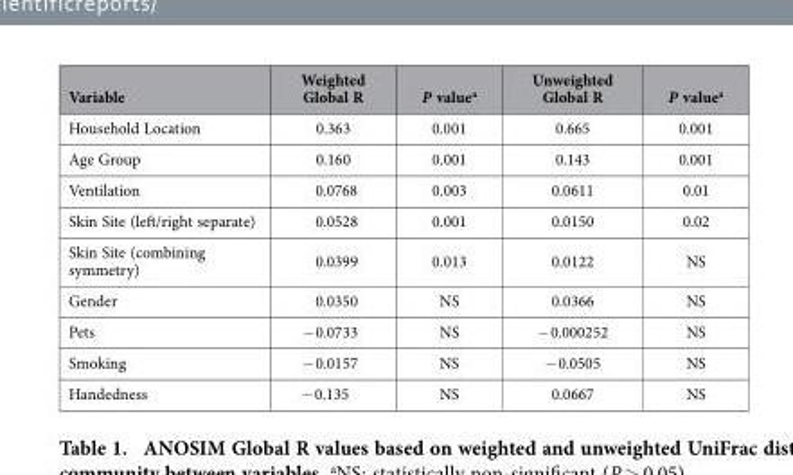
<table><thead><tr><td>Variable</td><td>Weighted Global R</td><td>P value<sup>a</sup></td><td>Unweighted Global R</td><td>P value<sup>a</sup></td></tr></thead><tbody><tr><td>Household Location</td><td>0.363</td><td>0.001</td><td>0.665</td><td>0.001</td></tr><tr><td>Age Group</td><td>0.160</td><td>0.001</td><td>0.143</td><td>0.001</td></tr><tr><td>Ventilation</td><td>0.0768</td><td>0.003</td><td>0.0611</td><td>0.01</td></tr><tr><td>Skin Site (left/right separate)</td><td>0.0528</td><td>0.001</td><td>0.0150</td><td>0.02</td></tr><tr><td>Skin Site (combining symmetry)</td><td>0.0399</td><td>0.013</td><td>0.0122</td><td>NS</td></tr><tr><td>Gender</td><td>0.0350</td><td>NS</td><td>0.0366</td><td>NS</td></tr><tr><td>Pets</td><td>− 0.0733</td><td>NS</td><td>− 0.000252</td><td>NS</td></tr><tr><td>Smoking</td><td>− 0.0157</td><td>NS</td><td>− 0.0505</td><td>NS</td></tr><tr><td>Handedness</td><td>− 0.135</td><td>NS</td><td>0.0667</td><td>NS</td></tr></tbody></table>